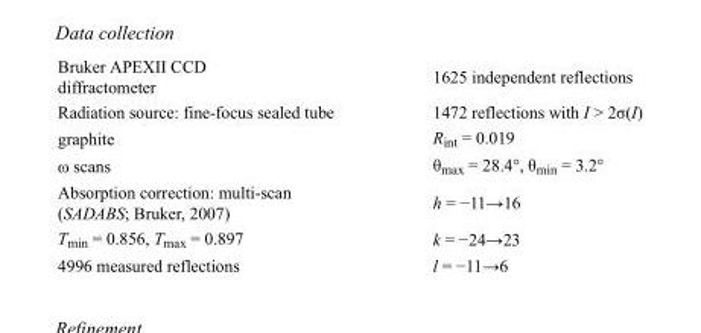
<table><tbody><tr><td>Bruker APEXII CCD diffractometer</td><td>1625 independent reflections</td></tr><tr><td>Radiation source: fine-focus sealed tube</td><td>1472 reflections with I &gt; 2σ(I)</td></tr><tr><td>graphite</td><td>R<sub>int</sub> = 0.019</td></tr><tr><td>ω scans</td><td>θ<sub>max</sub> = 28.4°, θ<sub>min</sub> = 3.2°</td></tr><tr><td>Absorption correction: multi-scan (SADABS; Bruker, 2007)</td><td>h = −11→16</td></tr><tr><td>T<sub>min</sub> = 0.856, T<sub>max</sub> = 0.897</td><td>k = −24→23</td></tr><tr><td>4996 measured reflections</td><td>l = −11→6</td></tr></tbody></table>